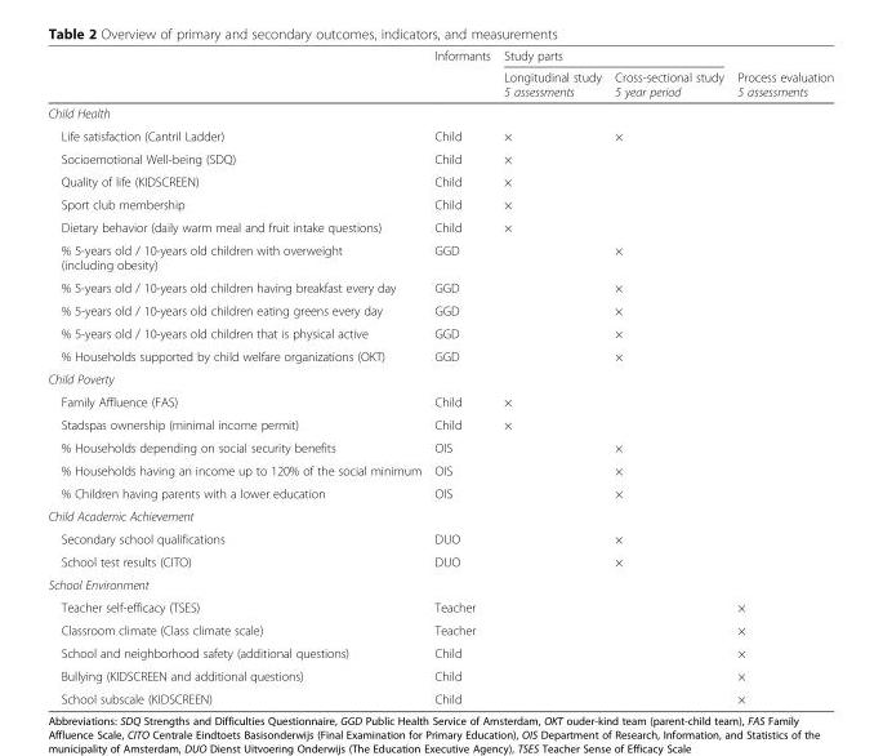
<table><thead><tr><td rowspan="2"></td><td rowspan="2">Informants</td><td colspan="2">Study parts</td><td rowspan="2">Process evaluation 5 assessments</td></tr><tr><td>Longitudinal study 5 assessments</td><td>Cross-sectional study 5 year period</td></tr></thead><tbody><tr><td colspan="5">Child Health</td></tr><tr><td>Life satisfaction (Cantril Ladder)</td><td>Child</td><td>×</td><td>×</td><td></td></tr><tr><td>Socioemotional Well-being (SDQ)</td><td>Child</td><td>×</td><td></td><td></td></tr><tr><td>Quality of life (KIDSCREEN)</td><td>Child</td><td>×</td><td></td><td></td></tr><tr><td>Sport club membership</td><td>Child</td><td>×</td><td></td><td></td></tr><tr><td>Dietary behavior (daily warm meal and fruit intake questions)</td><td>Child</td><td>×</td><td></td><td></td></tr><tr><td>% 5-years old / 10-years old children with overweight (including obesity)</td><td>GGD</td><td></td><td>×</td><td></td></tr><tr><td>% 5-years old / 10-years old children having breakfast every day</td><td>GGD</td><td></td><td>×</td><td></td></tr><tr><td>% 5-years old / 10-years old children eating greens every day</td><td>GGD</td><td></td><td>×</td><td></td></tr><tr><td>% 5-years old / 10-years old children that is physical active</td><td>GGD</td><td></td><td>×</td><td></td></tr><tr><td>% Households supported by child welfare organizations (OKT)</td><td>GGD</td><td></td><td>×</td><td></td></tr><tr><td colspan="5">Child Poverty</td></tr><tr><td>Family Affluence (FAS)</td><td>Child</td><td>×</td><td></td><td></td></tr><tr><td>Stadspas ownership (minimal income permit)</td><td>Child</td><td>×</td><td></td><td></td></tr><tr><td>% Households depending on social security benefits</td><td>OIS</td><td></td><td>×</td><td></td></tr><tr><td>% Households having an income up to 120% of the social minimum</td><td>OIS</td><td></td><td>×</td><td></td></tr><tr><td>% Children having parents with a lower education</td><td>OIS</td><td></td><td>×</td><td></td></tr><tr><td colspan="5">Child Academic Achievement</td></tr><tr><td>Secondary school qualifications</td><td>DUO</td><td></td><td>×</td><td></td></tr><tr><td>School test results (CITO)</td><td>DUO</td><td></td><td>×</td><td></td></tr><tr><td colspan="5">School Environment</td></tr><tr><td>Teacher self-efficacy (TSES)</td><td>Teacher</td><td></td><td></td><td>×</td></tr><tr><td>Classroom climate (Class climate scale)</td><td>Teacher</td><td></td><td></td><td>×</td></tr><tr><td>School and neighborhood safety (additional questions)</td><td>Child</td><td></td><td></td><td>×</td></tr><tr><td>Bullying (KIDSCREEN and additional questions)</td><td>Child</td><td></td><td></td><td>×</td></tr><tr><td>School subscale (KIDSCREEN)</td><td>Child</td><td></td><td></td><td>×</td></tr></tbody></table>